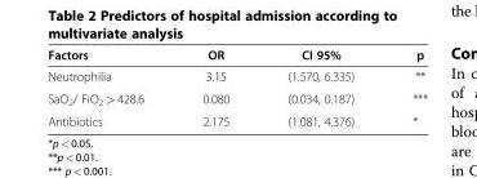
<table><thead><tr><td>Factors</td><td>OR</td><td>CI 95%</td><td>p</td></tr></thead><tbody><tr><td>Neutrophilia</td><td>3.15</td><td>(1.570, 6.335)</td><td>**</td></tr><tr><td>SaO<sub>2</sub>/ FiO<sub>2</sub> &gt; 428.6</td><td>0.080</td><td>(0.034, 0.187)</td><td>***</td></tr><tr><td>Antibiotics</td><td>2.175</td><td>(1.081, 4.376)</td><td>*</td></tr></tbody></table>